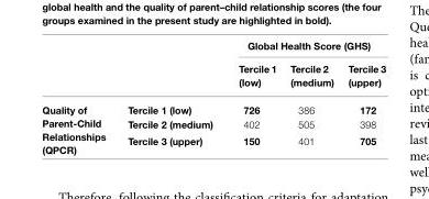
<table><thead><tr><td rowspan="2"></td><td rowspan="2"></td><td colspan="3">Global Health Score (GHS)</td></tr><tr><td>Tercile 1 (low)</td><td>Tercile 2 (medium)</td><td>Tercile 3 (upper)</td></tr></thead><tbody><tr><td rowspan="3">Quality of Parent-Child Relationships (QPCR)</td><td>Tercile 1 (low)</td><td>726</td><td>386</td><td>172</td></tr><tr><td>Tercile 2 (medium)</td><td>402</td><td>505</td><td>398</td></tr><tr><td>Tercile 3 (upper)</td><td>150</td><td>401</td><td>705</td></tr></tbody></table>